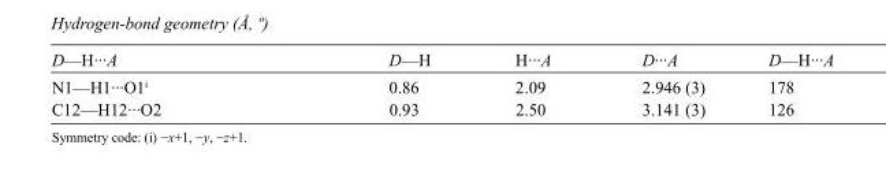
<table><tbody><tr><td>D—H···A</td><td>D—H</td><td>H···A</td><td>D···A</td><td>D—H···A</td></tr><tr><td>N1—H1···O1<sup>i</sup></td><td>0.86</td><td>2.09</td><td>2.946 (3)</td><td>178</td></tr><tr><td>C12—H12···O2</td><td>0.93</td><td>2.50</td><td>3.141 (3)</td><td>126</td></tr></tbody></table>